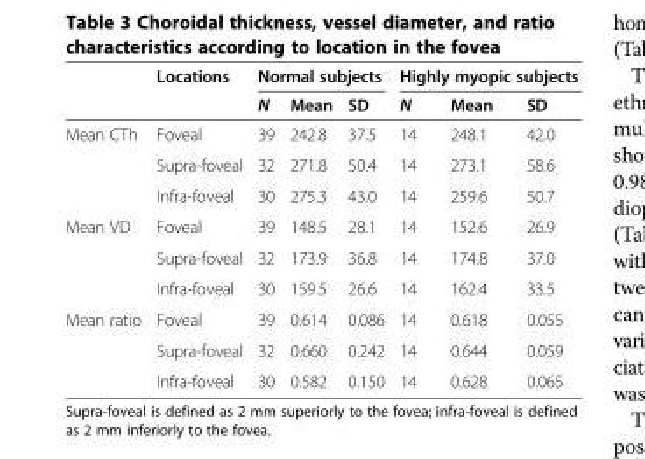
<table><thead><tr><td rowspan="2"></td><td rowspan="2">Locations</td><td colspan="3">Normal subjects</td><td colspan="3">Highly myopic subjects</td></tr><tr><td>N</td><td>Mean</td><td>SD</td><td>N</td><td>Mean</td><td>SD</td></tr></thead><tbody><tr><td rowspan="3">Mean CTh</td><td>Foveal</td><td>39</td><td>242.8</td><td>37.5</td><td>14</td><td>248.1</td><td>42.0</td></tr><tr><td>Supra-foveal</td><td>32</td><td>271.8</td><td>50.4</td><td>14</td><td>273.1</td><td>58.6</td></tr><tr><td>Infra-foveal</td><td>30</td><td>275.3</td><td>43.0</td><td>14</td><td>259.6</td><td>50.7</td></tr><tr><td rowspan="3">Mean VD</td><td>Foveal</td><td>39</td><td>148.5</td><td>28.1</td><td>14</td><td>152.6</td><td>26.9</td></tr><tr><td>Supra-foveal</td><td>32</td><td>173.9</td><td>36.8</td><td>14</td><td>174.8</td><td>37.0</td></tr><tr><td>Infra-foveal</td><td>30</td><td>159.5</td><td>26.6</td><td>14</td><td>162.4</td><td>33.5</td></tr><tr><td rowspan="3">Mean ratio</td><td>Foveal</td><td>39</td><td>0.614</td><td>0.086</td><td>14</td><td>0.618</td><td>0.055</td></tr><tr><td>Supra-foveal</td><td>32</td><td>0.660</td><td>0.242</td><td>14</td><td>0.644</td><td>0.059</td></tr><tr><td>Infra-foveal</td><td>30</td><td>0.582</td><td>0.150</td><td>14</td><td>0.628</td><td>0.065</td></tr></tbody></table>